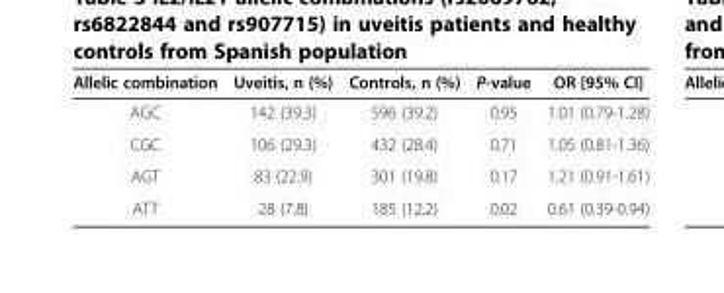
<table><thead><tr><td>Allelic combination</td><td>Uveitis, n (%)</td><td>Controls, n (%)</td><td>P-value</td><td>OR [95% CI]</td></tr></thead><tbody><tr><td>AGC</td><td>142 (39.3)</td><td>596 (39.2)</td><td>0.95</td><td>1.01 (0.79-1.28)</td></tr><tr><td>CGC</td><td>106 (29.3)</td><td>432 (28.4)</td><td>0.71</td><td>1.05 (0.81-1.36)</td></tr><tr><td>AGT</td><td>83 (22.9)</td><td>301 (19.8)</td><td>0.17</td><td>1.21 (0.91-1.61)</td></tr><tr><td>ATT</td><td>28 (7.8)</td><td>185 (12.2)</td><td>0.02</td><td>0.61 (0.39-0.94)</td></tr></tbody></table>